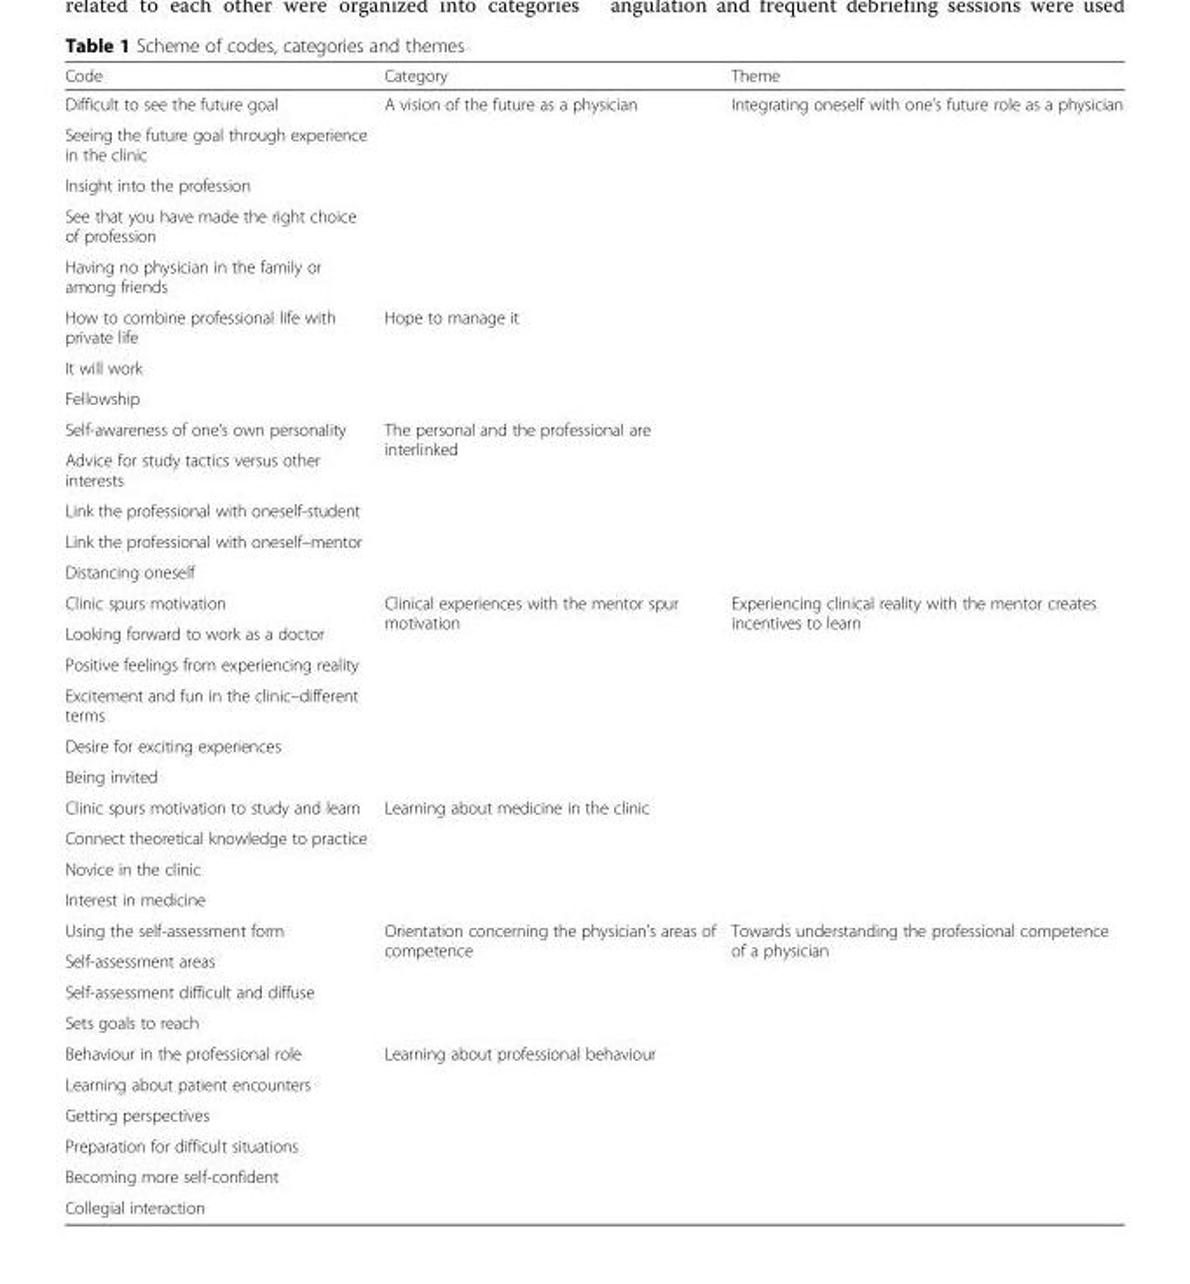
<table><thead><tr><td>Code</td><td>Category</td><td>Theme</td></tr></thead><tbody><tr><td>Difficult to see the future goal</td><td rowspan="5">A vision of the future as a physician</td><td rowspan="13">Integrating oneself with one’s future role as a physician</td></tr><tr><td>Seeing the future goal through experience in the clinic</td></tr><tr><td>Insight into the profession</td></tr><tr><td>See that you have made the right choice of profession</td></tr><tr><td>Having no physician in the family or among friends</td></tr><tr><td>How to combine professional life with private life</td><td rowspan="3">Hope to manage it</td></tr><tr><td>It will work</td></tr><tr><td>Fellowship</td></tr><tr><td>Self-awareness of one’s own personality</td><td rowspan="5">The personal and the professional are interlinked</td></tr><tr><td>Advice for study tactics versus other interests</td></tr><tr><td>Link the professional with oneself-student</td></tr><tr><td>Link the professional with oneself–mentor</td></tr><tr><td>Distancing oneself</td></tr><tr><td>Clinic spurs motivation</td><td rowspan="6">Clinical experiences with the mentor spur motivation</td><td rowspan="10">Experiencing clinical reality with the mentor creates incentives to learn</td></tr><tr><td>Looking forward to work as a doctor</td></tr><tr><td>Positive feelings from experiencing reality</td></tr><tr><td>Excitement and fun in the clinic–different terms</td></tr><tr><td>Desire for exciting experiences</td></tr><tr><td>Being invited</td></tr><tr><td>Clinic spurs motivation to study and learn</td><td rowspan="4">Learning about medicine in the clinic</td></tr><tr><td>Connect theoretical knowledge to practice</td></tr><tr><td>Novice in the clinic</td></tr><tr><td>Interest in medicine</td></tr><tr><td>Using the self-assessment form</td><td rowspan="4">Orientation concerning the physician’s areas of competence</td><td rowspan="10">Towards understanding the professional competence of a physician</td></tr><tr><td>Self-assessment areas</td></tr><tr><td>Self-assessment difficult and diffuse</td></tr><tr><td>Sets goals to reach</td></tr><tr><td>Behaviour in the professional role</td><td rowspan="6">Learning about professional behaviour</td></tr><tr><td>Learning about patient encounters</td></tr><tr><td>Getting perspectives</td></tr><tr><td>Preparation for difficult situations</td></tr><tr><td>Becoming more self-confident</td></tr><tr><td>Collegial interaction</td></tr></tbody></table>